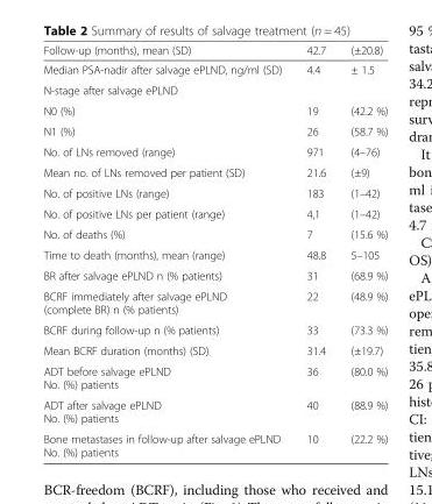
<table><thead><tr><td>Follow-up (months), mean (SD)</td><td>42.7</td><td>(±20.8)</td></tr></thead><tbody><tr><td>Median PSA-nadir after salvage ePLND, ng/ml (SD)</td><td>4.4</td><td>± 1.5</td></tr><tr><td colspan="3">N-stage after salvage ePLND</td></tr><tr><td>N0 (%)</td><td>19</td><td>(42.2 %)</td></tr><tr><td>N1 (%)</td><td>26</td><td>(58.7 %)</td></tr><tr><td>No. of LNs removed (range)</td><td>971</td><td>(4–76)</td></tr><tr><td>Mean no. of LNs removed per patient (SD)</td><td>21.6</td><td>(±9)</td></tr><tr><td>No. of positive LNs (range)</td><td>183</td><td>(1–42)</td></tr><tr><td>No. of positive LNs per patient (range)</td><td>4,1</td><td>(1–42)</td></tr><tr><td>No. of deaths (%)</td><td>7</td><td>(15.6 %)</td></tr><tr><td>Time to death (months), mean (range)</td><td>48.8</td><td>5–105</td></tr><tr><td>BR after salvage ePLND n (% patients)</td><td>31</td><td>(68.9 %)</td></tr><tr><td>BCRF immediately after salvage ePLND (complete BR) n (% patients)</td><td>22</td><td>(48.9 %)</td></tr><tr><td>BCRF during follow-up n (% patients)</td><td>33</td><td>(73.3 %)</td></tr><tr><td>Mean BCRF duration (months) (SD)</td><td>31.4</td><td>(±19.7)</td></tr><tr><td>ADT before salvage ePLND No. (%) patients</td><td>36</td><td>(80.0 %)</td></tr><tr><td>ADT after salvage ePLND No. (%) patients</td><td>40</td><td>(88.9 %)</td></tr><tr><td>Bone metastases in follow-up after salvage ePLND No. (%) patients</td><td>10</td><td>(22.2 %)</td></tr></tbody></table>